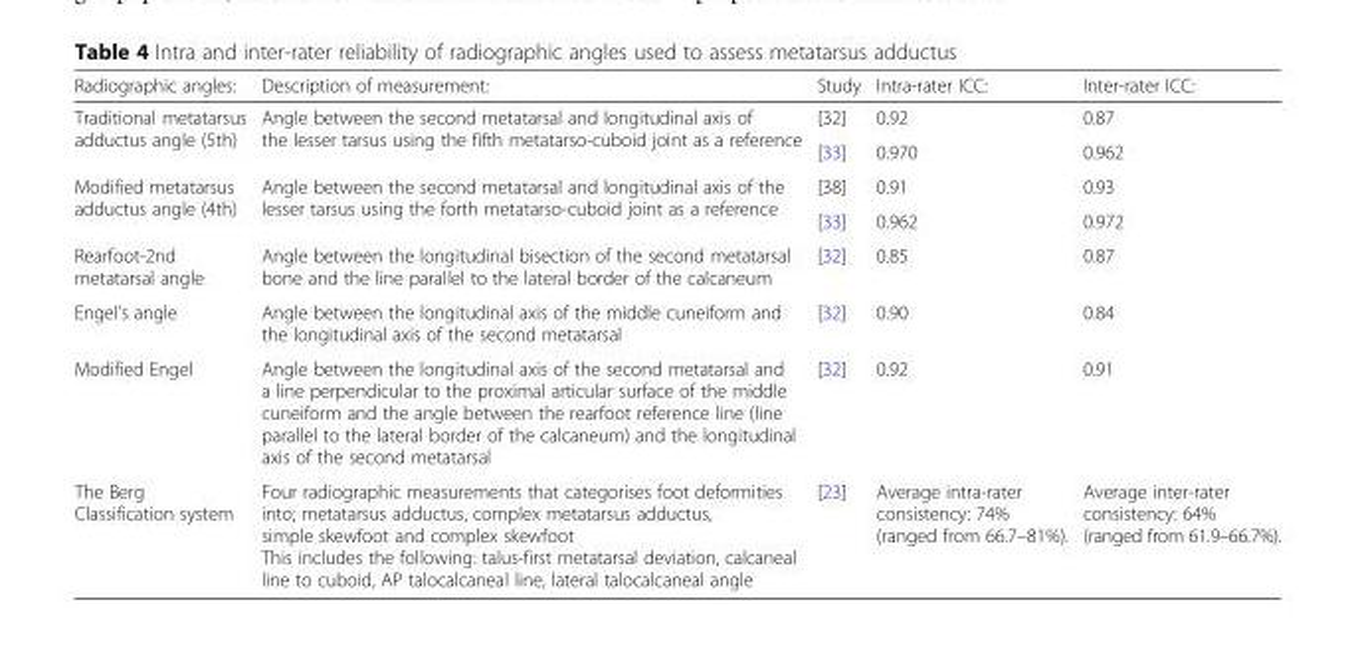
<table><thead><tr><td>Radiographic angles:</td><td>Description of measurement:</td><td>Study</td><td>Intra-rater ICC:</td><td>Inter-rater ICC:</td></tr></thead><tbody><tr><td rowspan="2">Traditional metatarsus adductus angle (5th)</td><td rowspan="2">Angle between the second metatarsal and longitudinal axis of the lesser tarsus using the fifth metatarso-cuboid joint as a reference</td><td>[32]</td><td>0.92</td><td>0.87</td></tr><tr><td>[33]</td><td>0.970</td><td>0.962</td></tr><tr><td rowspan="2">Modified metatarsus adductus angle (4th)</td><td rowspan="2">Angle between the second metatarsal and longitudinal axis of the lesser tarsus using the forth metatarso-cuboid joint as a reference</td><td>[38]</td><td>0.91</td><td>0.93</td></tr><tr><td>[33]</td><td>0.962</td><td>0.972</td></tr><tr><td>Rearfoot-2nd metatarsal angle</td><td>Angle between the longitudinal bisection of the second metatarsal bone and the line parallel to the lateral border of the calcaneum</td><td>[32]</td><td>0.85</td><td>0.87</td></tr><tr><td>Engel’s angle</td><td>Angle between the longitudinal axis of the middle cuneiform and the longitudinal axis of the second metatarsal</td><td>[32]</td><td>0.90</td><td>0.84</td></tr><tr><td>Modified Engel</td><td>Angle between the longitudinal axis of the second metatarsal and a line perpendicular to the proximal articular surface of the middle cuneiform and the angle between the rearfoot reference line (line parallel to the lateral border of the calcaneum) and the longitudinal axis of the second metatarsal</td><td>[32]</td><td>0.92</td><td>0.91</td></tr><tr><td>The Berg Classification system</td><td>Four radiographic measurements that categorises foot deformities into; metatarsus adductus, complex metatarsus adductus, simple skewfoot and complex skewfoot This includes the following: talus-first metatarsal deviation, calcaneal line to cuboid, AP talocalcaneal line, lateral talocalcaneal angle</td><td>[23]</td><td>Average intra-rater consistency: 74% (ranged from 66.7–81%).</td><td>Average inter-rater consistency: 64% (ranged from 61.9–66.7%).</td></tr></tbody></table>